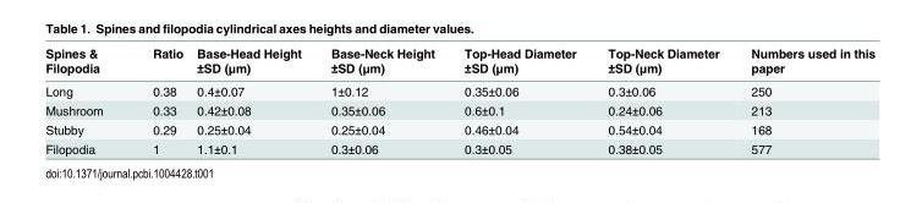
<table><thead><tr><td>Spines &amp; Filopodia</td><td>Ratio</td><td>Base-Head Height ±SD (μm)</td><td>Base-Neck Height ±SD (μm)</td><td>Top-Head Diameter ±SD (μm)</td><td>Top-Neck Diameter ±SD (μm)</td><td>Numbers used in this paper</td></tr></thead><tbody><tr><td>Long</td><td>0.38</td><td>0.4±0.07</td><td>1±0.12</td><td>0.35±0.06</td><td>0.3±0.06</td><td>250</td></tr><tr><td>Mushroom</td><td>0.33</td><td>0.42±0.08</td><td>0.35±0.06</td><td>0.6±0.1</td><td>0.24±0.06</td><td>213</td></tr><tr><td>Stubby</td><td>0.29</td><td>0.25±0.04</td><td>0.25±0.04</td><td>0.46±0.04</td><td>0.54±0.04</td><td>168</td></tr><tr><td>Filopodia</td><td>1</td><td>1.1±0.1</td><td>0.3±0.06</td><td>0.3±0.05</td><td>0.38±0.05</td><td>577</td></tr></tbody></table>